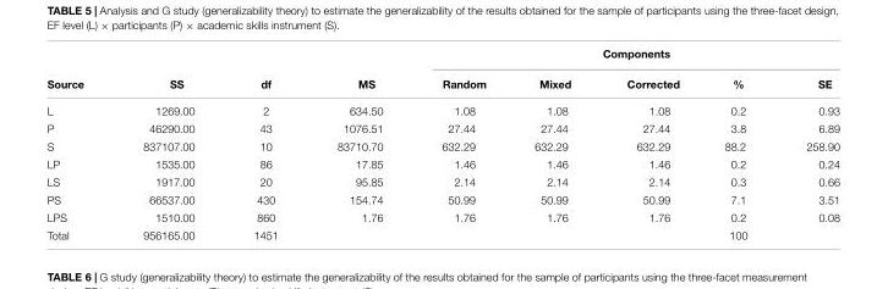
<table><thead><tr><td rowspan="2">Source</td><td rowspan="2">SS</td><td rowspan="2">df</td><td rowspan="2">MS</td><td colspan="5">Components</td></tr><tr><td>Random</td><td>Mixed</td><td>Corrected</td><td>%</td><td>SE</td></tr></thead><tbody><tr><td>L</td><td>1269.00</td><td>2</td><td>634.50</td><td>1.08</td><td>1.08</td><td>1.08</td><td>0.2</td><td>0.93</td></tr><tr><td>P</td><td>46290.00</td><td>43</td><td>1076.51</td><td>27.44</td><td>27.44</td><td>27.44</td><td>3.8</td><td>6.89</td></tr><tr><td>S</td><td>837107.00</td><td>10</td><td>83710.70</td><td>632.29</td><td>632.29</td><td>632.29</td><td>88.2</td><td>258.90</td></tr><tr><td>LP</td><td>1535.00</td><td>86</td><td>17.85</td><td>1.46</td><td>1.46</td><td>1.46</td><td>0.2</td><td>0.24</td></tr><tr><td>LS</td><td>1917.00</td><td>20</td><td>95.85</td><td>2.14</td><td>2.14</td><td>2.14</td><td>0.3</td><td>0.66</td></tr><tr><td>PS</td><td>66537.00</td><td>430</td><td>154.74</td><td>50.99</td><td>50.99</td><td>50.99</td><td>7.1</td><td>3.51</td></tr><tr><td>LPS</td><td>1510.00</td><td>860</td><td>1.76</td><td>1.76</td><td>1.76</td><td>1.76</td><td>0.2</td><td>0.08</td></tr><tr><td>Total</td><td>956165.00</td><td>1451</td><td></td><td></td><td></td><td></td><td>100</td><td></td></tr></tbody></table>